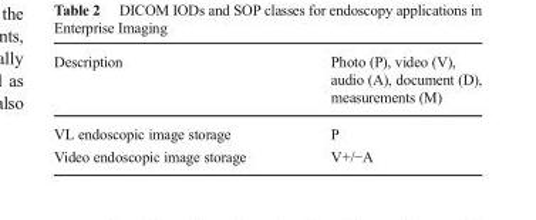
<table><thead><tr><td>Description</td><td>Photo (P), video (V), audio (A), document (D), measurements (M)</td></tr></thead><tbody><tr><td>VL endoscopic image storage</td><td>P</td></tr><tr><td>Video endoscopic image storage</td><td>V+/−A</td></tr></tbody></table>